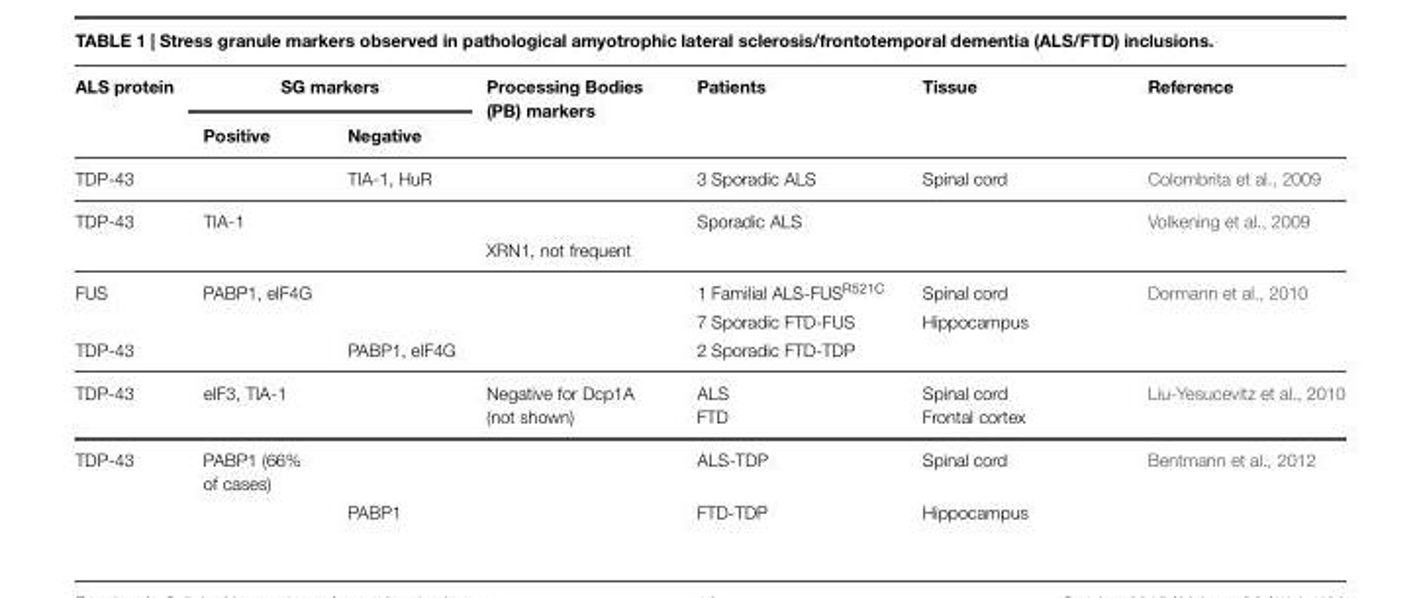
<table><thead><tr><td rowspan="2">ALS protein</td><td colspan="2">SG markers</td><td rowspan="2">Processing Bodies (PB) markers</td><td rowspan="2">Patients</td><td rowspan="2">Tissue</td><td rowspan="2">Reference</td></tr><tr><td>Positive</td><td>Negative</td></tr></thead><tbody><tr><td>TDP-43</td><td></td><td>TIA-1, HuR</td><td></td><td>3 Sporadic ALS</td><td>Spinal cord</td><td>Colombrita et al., 2009</td></tr><tr><td rowspan="2">TDP-43</td><td>TIA-1</td><td></td><td></td><td>Sporadic ALS</td><td></td><td>Volkening et al., 2009</td></tr><tr><td></td><td></td><td>XRN1, not frequent</td><td></td><td></td><td></td></tr><tr><td rowspan="2">FUS</td><td>PABP1, eIF4G</td><td></td><td></td><td>1 Familial ALS-FUS<sup>R521C</sup></td><td>Spinal cord</td><td>Dormann et al., 2010</td></tr><tr><td></td><td></td><td></td><td>7 Sporadic FTD-FUS</td><td>Hippocampus</td><td></td></tr><tr><td>TDP-43</td><td></td><td>PABP1, eIF4G</td><td></td><td>2 Sporadic FTD-TDP</td><td></td><td></td></tr><tr><td>TDP-43</td><td>eIF3, TIA-1</td><td></td><td>Negative for Dcp1A (not shown)</td><td>ALS FTD</td><td>Spinal cord Frontal cortex</td><td>Liu-Yesucevitz et al., 2010</td></tr><tr><td rowspan="2">TDP-43</td><td>PABP1 (66% of cases)</td><td></td><td></td><td>ALS-TDP</td><td>Spinal cord</td><td>Bentmann et al., 2012</td></tr><tr><td></td><td>PABP1</td><td></td><td>FTD-TDP</td><td>Hippocampus</td><td></td></tr></tbody></table>